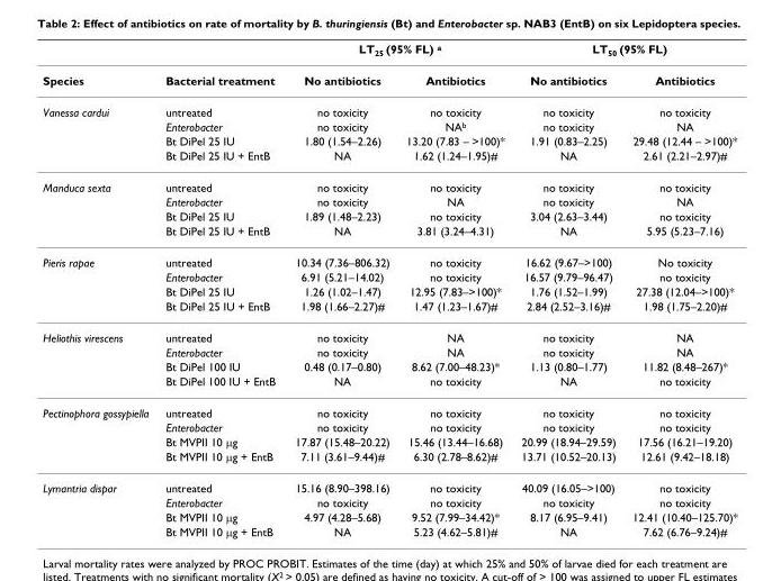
<table><thead><tr><td rowspan="2">Species</td><td rowspan="2">Bacterial treatment</td><td colspan="2">LT<sub>25</sub> (95% FL) <sup>a</sup></td><td colspan="2">LT<sub>50</sub> (95% FL)</td></tr><tr><td>No antibiotics</td><td>Antibiotics</td><td>No antibiotics</td><td>Antibiotics</td></tr></thead><tbody><tr><td rowspan="4">Vanessa cardui</td><td>untreated</td><td>no toxicity</td><td>no toxicity</td><td>no toxicity</td><td>no toxicity</td></tr><tr><td>Enterobacter</td><td>no toxicity</td><td>NA<sup>b</sup></td><td>no toxicity</td><td>NA</td></tr><tr><td>Bt DiPel 25 IU</td><td>1.80 (1.54–2.26)</td><td>13.20 (7.83 – &gt;100)*</td><td>1.91 (0.83–2.25)</td><td>29.48 (12.44 – &gt;100)*</td></tr><tr><td>Bt DiPel 25 IU + EntB</td><td>NA</td><td>1.62 (1.24–1.95)#</td><td>NA</td><td>2.61 (2.21–2.97)#</td></tr><tr><td rowspan="4">Manduca sexta</td><td>untreated</td><td>no toxicity</td><td>no toxicity</td><td>no toxicity</td><td>no toxicity</td></tr><tr><td>Enterobacter</td><td>no toxicity</td><td>NA</td><td>no toxicity</td><td>NA</td></tr><tr><td>Bt DiPel 25 IU</td><td>1.89 (1.48–2.23)</td><td>no toxicity</td><td>3.04 (2.63–3.44)</td><td>no toxicity</td></tr><tr><td>Bt DiPel 25 IU + EntB</td><td>NA</td><td>3.81 (3.24–4.31)</td><td>NA</td><td>5.95 (5.23–7.16)</td></tr><tr><td rowspan="4">Pieris rapae</td><td>untreated</td><td>10.34 (7.36–806.32)</td><td>no toxicity</td><td>16.62 (9.67–&gt;100)</td><td>No toxicity</td></tr><tr><td>Enterobacter</td><td>6.91 (5.21–14.02)</td><td>no toxicity</td><td>16.57 (9.79–96.47)</td><td>no toxicity</td></tr><tr><td>Bt DiPel 25 IU</td><td>1.26 (1.02–1.47)</td><td>12.95 (7.83–&gt;100)*</td><td>1.76 (1.52–1.99)</td><td>27.38 (12.04–&gt;100)*</td></tr><tr><td>Bt DiPel 25 IU + EntB</td><td>1.98 (1.66–2.27)#</td><td>1.47 (1.23–1.67)#</td><td>2.84 (2.52–3.16)#</td><td>1.98 (1.75–2.20)#</td></tr><tr><td rowspan="4">Heliothis virescens</td><td>untreated</td><td>no toxicity</td><td>NA</td><td>no toxicity</td><td>NA</td></tr><tr><td>Enterobacter</td><td>no toxicity</td><td>NA</td><td>no toxicity</td><td>NA</td></tr><tr><td>Bt DiPel 100 IU</td><td>0.48 (0.17–0.80)</td><td>8.62 (7.00–48.23)*</td><td>1.13 (0.80–1.77)</td><td>11.82 (8.48–267)*</td></tr><tr><td>Bt DiPel 100 IU + EntB</td><td>NA</td><td>no toxicity</td><td>NA</td><td>no toxicity</td></tr><tr><td rowspan="4">Pectinophora gossypiella</td><td>untreated</td><td>no toxicity</td><td>no toxicity</td><td>no toxicity</td><td>no toxicity</td></tr><tr><td>Enterobacter</td><td>no toxicity</td><td>no toxicity</td><td>no toxicity</td><td>no toxicity</td></tr><tr><td>Bt MVPII 10 μg</td><td>17.87 (15.48–20.22)</td><td>15.46 (13.44–16.68)</td><td>20.99 (18.94–29.59)</td><td>17.56 (16.21–19.20)</td></tr><tr><td>Bt MVPII 10 μg + EntB</td><td>7.11 (3.61–9.44)#</td><td>6.30 (2.78–8.62)#</td><td>13.71 (10.52–20.13)</td><td>12.61 (9.42–18.18)</td></tr><tr><td rowspan="4">Lymantria dispar</td><td>untreated</td><td>15.16 (8.90–398.16)</td><td>no toxicity</td><td>40.09 (16.05–&gt;100)</td><td>no toxicity</td></tr><tr><td>Enterobacter</td><td>no toxicity</td><td>no toxicity</td><td>no toxicity</td><td>no toxicity</td></tr><tr><td>Bt MVPII 10 μg</td><td>4.97 (4.28–5.68)</td><td>9.52 (7.99–34.42)*</td><td>8.17 (6.95–9.41)</td><td>12.41 (10.40–125.70)*</td></tr><tr><td>Bt MVPII 10 μg + EntB</td><td>NA</td><td>5.23 (4.62–5.81)#</td><td>NA</td><td>7.62 (6.76–9.24)#</td></tr></tbody></table>